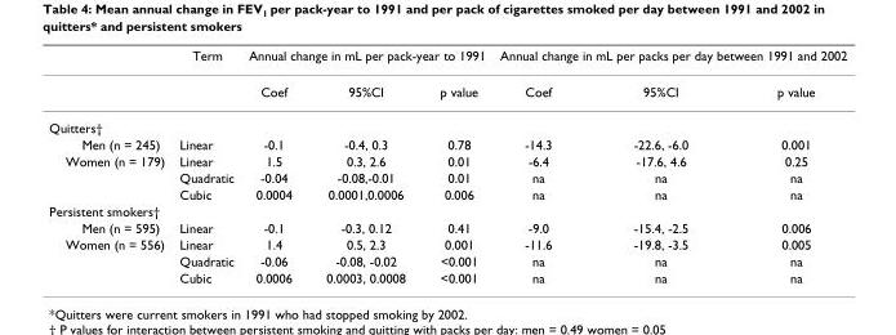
<table><thead><tr><td rowspan="2"></td><td rowspan="2">Term</td><td colspan="3">Annual change in mL per pack-year to 1991</td><td colspan="3">Annual change in mL per packs per day between 1991 and 2002</td></tr><tr><td>Coef</td><td>95%CI</td><td>p value</td><td>Coef</td><td>95%CI</td><td>p value</td></tr></thead><tbody><tr><td colspan="8">Quitters†</td></tr><tr><td>Men (n = 245)</td><td>Linear</td><td>-0.1</td><td>-0.4, 0.3</td><td>0.78</td><td>-14.3</td><td>-22.6, -6.0</td><td>0.001</td></tr><tr><td rowspan="3">Women (n = 179)</td><td>Linear</td><td>1.5</td><td>0.3, 2.6</td><td>0.01</td><td>-6.4</td><td>-17.6, 4.6</td><td>0.25</td></tr><tr><td>Quadratic</td><td>-0.04</td><td>-0.08,-0.01</td><td>0.01</td><td>na</td><td>na</td><td>na</td></tr><tr><td>Cubic</td><td>0.0004</td><td>0.0001,0.0006</td><td>0.006</td><td>na</td><td>na</td><td>na</td></tr><tr><td colspan="8">Persistent smokers†</td></tr><tr><td>Men (n = 595)</td><td>Linear</td><td>-0.1</td><td>-0.3, 0.12</td><td>0.41</td><td>-9.0</td><td>-15.4, -2.5</td><td>0.006</td></tr><tr><td rowspan="3">Women (n = 556)</td><td>Linear</td><td>1.4</td><td>0.5, 2.3</td><td>0.001</td><td>-11.6</td><td>-19.8, -3.5</td><td>0.005</td></tr><tr><td>Quadratic</td><td>-0.06</td><td>-0.08, -0.02</td><td>&lt;0.001</td><td>na</td><td>na</td><td>na</td></tr><tr><td>Cubic</td><td>0.0006</td><td>0.0003, 0.0008</td><td>&lt;0.001</td><td>na</td><td>na</td><td>na</td></tr></tbody></table>